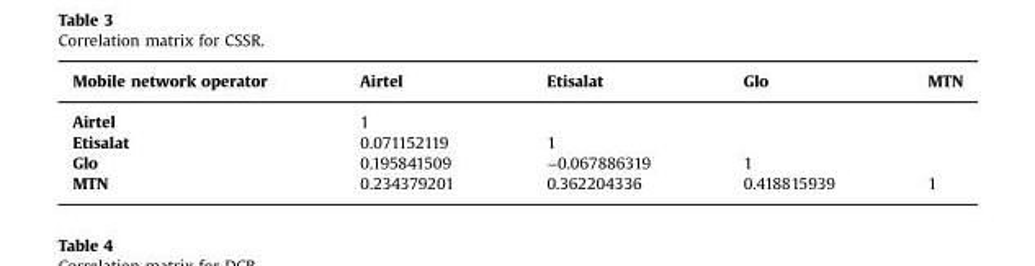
<table><thead><tr><td>Mobile network operator</td><td>Airtel</td><td>Etisalat</td><td>Glo</td><td>MTN</td></tr></thead><tbody><tr><td>Airtel</td><td>1</td><td></td><td></td><td></td></tr><tr><td>Etisalat</td><td>0.071152119</td><td>1</td><td></td><td></td></tr><tr><td>Glo</td><td>0.195841509</td><td>−0.067886319</td><td>1</td><td></td></tr><tr><td>MTN</td><td>0.234379201</td><td>0.362204336</td><td>0.418815939</td><td>1</td></tr></tbody></table>